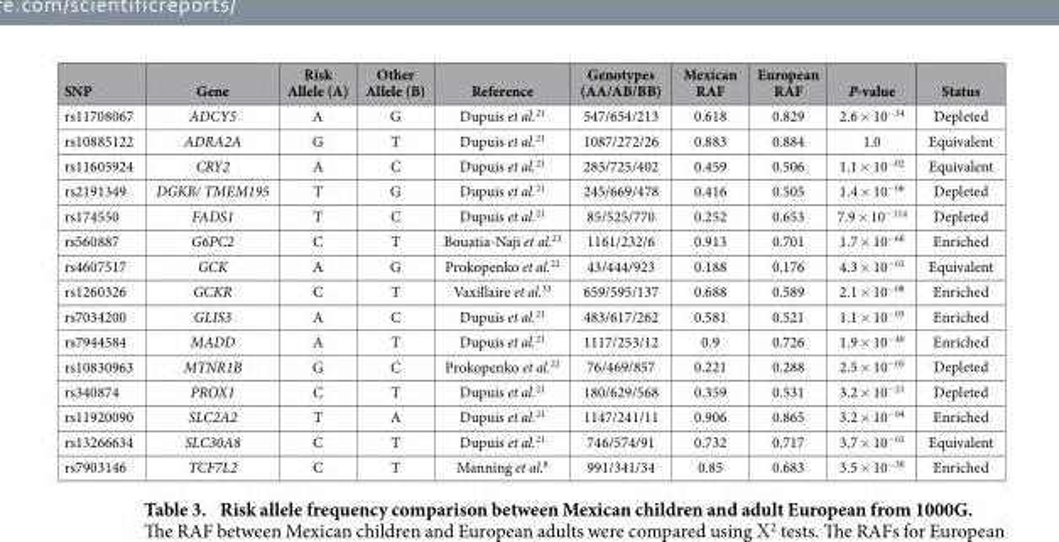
<table><thead><tr><td>SNP</td><td>Gene</td><td>Risk Allele (A)</td><td>Other Allele (B)</td><td>Reference</td><td>Genotypes (AA/AB/BB)</td><td>Mexican RAF</td><td>European RAF</td><td>P-value</td><td>Status</td></tr></thead><tbody><tr><td>rs11708067</td><td>ADCY5</td><td>A</td><td>G</td><td>Dupuis et al.<sup>21</sup></td><td>547/654/213</td><td>0.618</td><td>0.829</td><td>2.6 × 10<sup>−34</sup></td><td>Depleted</td></tr><tr><td>rs10885122</td><td>ADRA2A</td><td>G</td><td>T</td><td>Dupuis et al.<sup>21</sup></td><td>1087/272/26</td><td>0.883</td><td>0.884</td><td>1.0</td><td>Equivalent</td></tr><tr><td>rs11605924</td><td>CRY2</td><td>A</td><td>C</td><td>Dupuis et al.<sup>21</sup></td><td>285/725/402</td><td>0.459</td><td>0.506</td><td>1.1 × 10<sup>−02</sup></td><td>Equivalent</td></tr><tr><td>rs2191349</td><td>DGKB/ TMEM195</td><td>T</td><td>G</td><td>Dupuis et al.<sup>21</sup></td><td>245/669/478</td><td>0.416</td><td>0.505</td><td>1.4 × 10<sup>−06</sup></td><td>Depleted</td></tr><tr><td>rs174550</td><td>FADS1</td><td>T</td><td>C</td><td>Dupuis et al.<sup>21</sup></td><td>85/525/770</td><td>0.252</td><td>0.653</td><td>7.9 × 10<sup>−114</sup></td><td>Depleted</td></tr><tr><td>rs560887</td><td>G6PC2</td><td>C</td><td>T</td><td>Bouatia-Naji et al.<sup>23</sup></td><td>1161/232/6</td><td>0.913</td><td>0.701</td><td>1.7 × 10<sup>−60</sup></td><td>Enriched</td></tr><tr><td>rs4607517</td><td>GCK</td><td>A</td><td>G</td><td>Prokopenko et al.<sup>22</sup></td><td>43/444/923</td><td>0.188</td><td>0.176</td><td>4.3 × 10<sup>−01</sup></td><td>Equivalent</td></tr><tr><td>rs1260326</td><td>GCKR</td><td>C</td><td>T</td><td>Vaxillaire et al.<sup>33</sup></td><td>659/595/137</td><td>0.688</td><td>0.589</td><td>2.1 × 10<sup>−08</sup></td><td>Enriched</td></tr><tr><td>rs7034200</td><td>GLIS3</td><td>A</td><td>C</td><td>Dupuis et al.<sup>21</sup></td><td>483/617/262</td><td>0.581</td><td>0.521</td><td>1.1 × 10<sup>−03</sup></td><td>Enriched</td></tr><tr><td>rs7944584</td><td>MADD</td><td>A</td><td>T</td><td>Dupuis et al.<sup>21</sup></td><td>1117/253/12</td><td>0.9</td><td>0.726</td><td>1.9 × 10<sup>−40</sup></td><td>Enriched</td></tr><tr><td>rs10830963</td><td>MTNR1B</td><td>G</td><td>C</td><td>Prokopenko et al.<sup>22</sup></td><td>76/469/857</td><td>0.221</td><td>0.288</td><td>2.5 × 10<sup>−05</sup></td><td>Depleted</td></tr><tr><td>rs340874</td><td>PROX1</td><td>C</td><td>T</td><td>Dupuis et al.<sup>21</sup></td><td>180/629/568</td><td>0.359</td><td>0.531</td><td>3.2 × 10<sup>−21</sup></td><td>Depleted</td></tr><tr><td>rs11920090</td><td>SLC2A2</td><td>T</td><td>A</td><td>Dupuis et al.<sup>21</sup></td><td>1147/241/11</td><td>0.906</td><td>0.865</td><td>3.2 × 10<sup>−04</sup></td><td>Enriched</td></tr><tr><td>rs13266634</td><td>SLC30A8</td><td>C</td><td>T</td><td>Dupuis et al.<sup>21</sup></td><td>746/574/91</td><td>0.732</td><td>0.717</td><td>3.7 × 10<sup>−01</sup></td><td>Equivalent</td></tr><tr><td>rs7903146</td><td>TCF7L2</td><td>C</td><td>T</td><td>Manning et al.<sup>8</sup></td><td>991/341/34</td><td>0.85</td><td>0.683</td><td>3.5 × 10<sup>−30</sup></td><td>Enriched</td></tr></tbody></table>